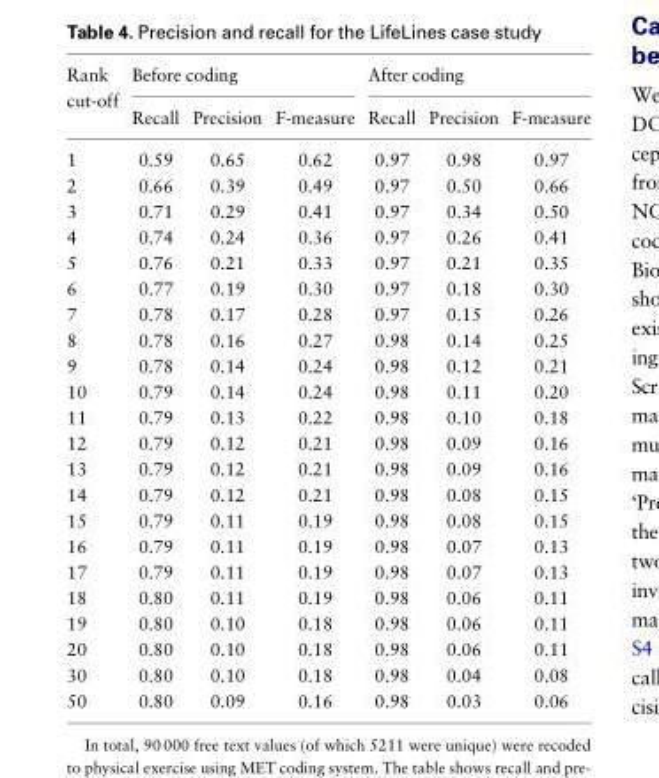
<table><thead><tr><td rowspan="2">Rank cut-off</td><td colspan="3">Before coding</td><td colspan="3">After coding</td></tr><tr><td>Recall</td><td>Precision</td><td>F-measure</td><td>Recall</td><td>Precision</td><td>F-measure</td></tr></thead><tbody><tr><td>1</td><td>0.59</td><td>0.65</td><td>0.62</td><td>0.97</td><td>0.98</td><td>0.97</td></tr><tr><td>2</td><td>0.66</td><td>0.39</td><td>0.49</td><td>0.97</td><td>0.50</td><td>0.66</td></tr><tr><td>3</td><td>0.71</td><td>0.29</td><td>0.41</td><td>0.97</td><td>0.34</td><td>0.50</td></tr><tr><td>4</td><td>0.74</td><td>0.24</td><td>0.36</td><td>0.97</td><td>0.26</td><td>0.41</td></tr><tr><td>5</td><td>0.76</td><td>0.21</td><td>0.33</td><td>0.97</td><td>0.21</td><td>0.35</td></tr><tr><td>6</td><td>0.77</td><td>0.19</td><td>0.30</td><td>0.97</td><td>0.18</td><td>0.30</td></tr><tr><td>7</td><td>0.78</td><td>0.17</td><td>0.28</td><td>0.97</td><td>0.15</td><td>0.26</td></tr><tr><td>8</td><td>0.78</td><td>0.16</td><td>0.27</td><td>0.98</td><td>0.14</td><td>0.25</td></tr><tr><td>9</td><td>0.78</td><td>0.14</td><td>0.24</td><td>0.98</td><td>0.12</td><td>0.21</td></tr><tr><td>10</td><td>0.79</td><td>0.14</td><td>0.24</td><td>0.98</td><td>0.11</td><td>0.20</td></tr><tr><td>11</td><td>0.79</td><td>0.13</td><td>0.22</td><td>0.98</td><td>0.10</td><td>0.18</td></tr><tr><td>12</td><td>0.79</td><td>0.12</td><td>0.21</td><td>0.98</td><td>0.09</td><td>0.16</td></tr><tr><td>13</td><td>0.79</td><td>0.12</td><td>0.21</td><td>0.98</td><td>0.09</td><td>0.16</td></tr><tr><td>14</td><td>0.79</td><td>0.12</td><td>0.21</td><td>0.98</td><td>0.08</td><td>0.15</td></tr><tr><td>15</td><td>0.79</td><td>0.11</td><td>0.19</td><td>0.98</td><td>0.08</td><td>0.15</td></tr><tr><td>16</td><td>0.79</td><td>0.11</td><td>0.19</td><td>0.98</td><td>0.07</td><td>0.13</td></tr><tr><td>17</td><td>0.79</td><td>0.11</td><td>0.19</td><td>0.98</td><td>0.07</td><td>0.13</td></tr><tr><td>18</td><td>0.80</td><td>0.11</td><td>0.19</td><td>0.98</td><td>0.06</td><td>0.11</td></tr><tr><td>19</td><td>0.80</td><td>0.10</td><td>0.18</td><td>0.98</td><td>0.06</td><td>0.11</td></tr><tr><td>20</td><td>0.80</td><td>0.10</td><td>0.18</td><td>0.98</td><td>0.06</td><td>0.11</td></tr><tr><td>30</td><td>0.80</td><td>0.10</td><td>0.18</td><td>0.98</td><td>0.04</td><td>0.08</td></tr><tr><td>50</td><td>0.80</td><td>0.09</td><td>0.16</td><td>0.98</td><td>0.03</td><td>0.06</td></tr></tbody></table>